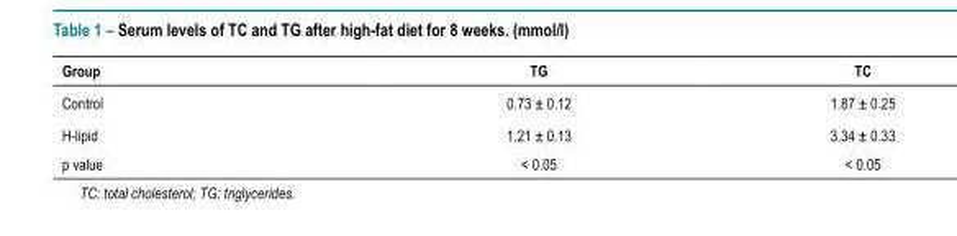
<table><thead><tr><td>Group</td><td>TG</td><td>TC</td></tr></thead><tbody><tr><td>Control</td><td>0.73 ± 0.12</td><td>1.87 ± 0.25</td></tr><tr><td>H-lipid</td><td>1.21 ± 0.13</td><td>3.34 ± 0.33</td></tr><tr><td>p value</td><td>&lt; 0.05</td><td>&lt; 0.05</td></tr></tbody></table>